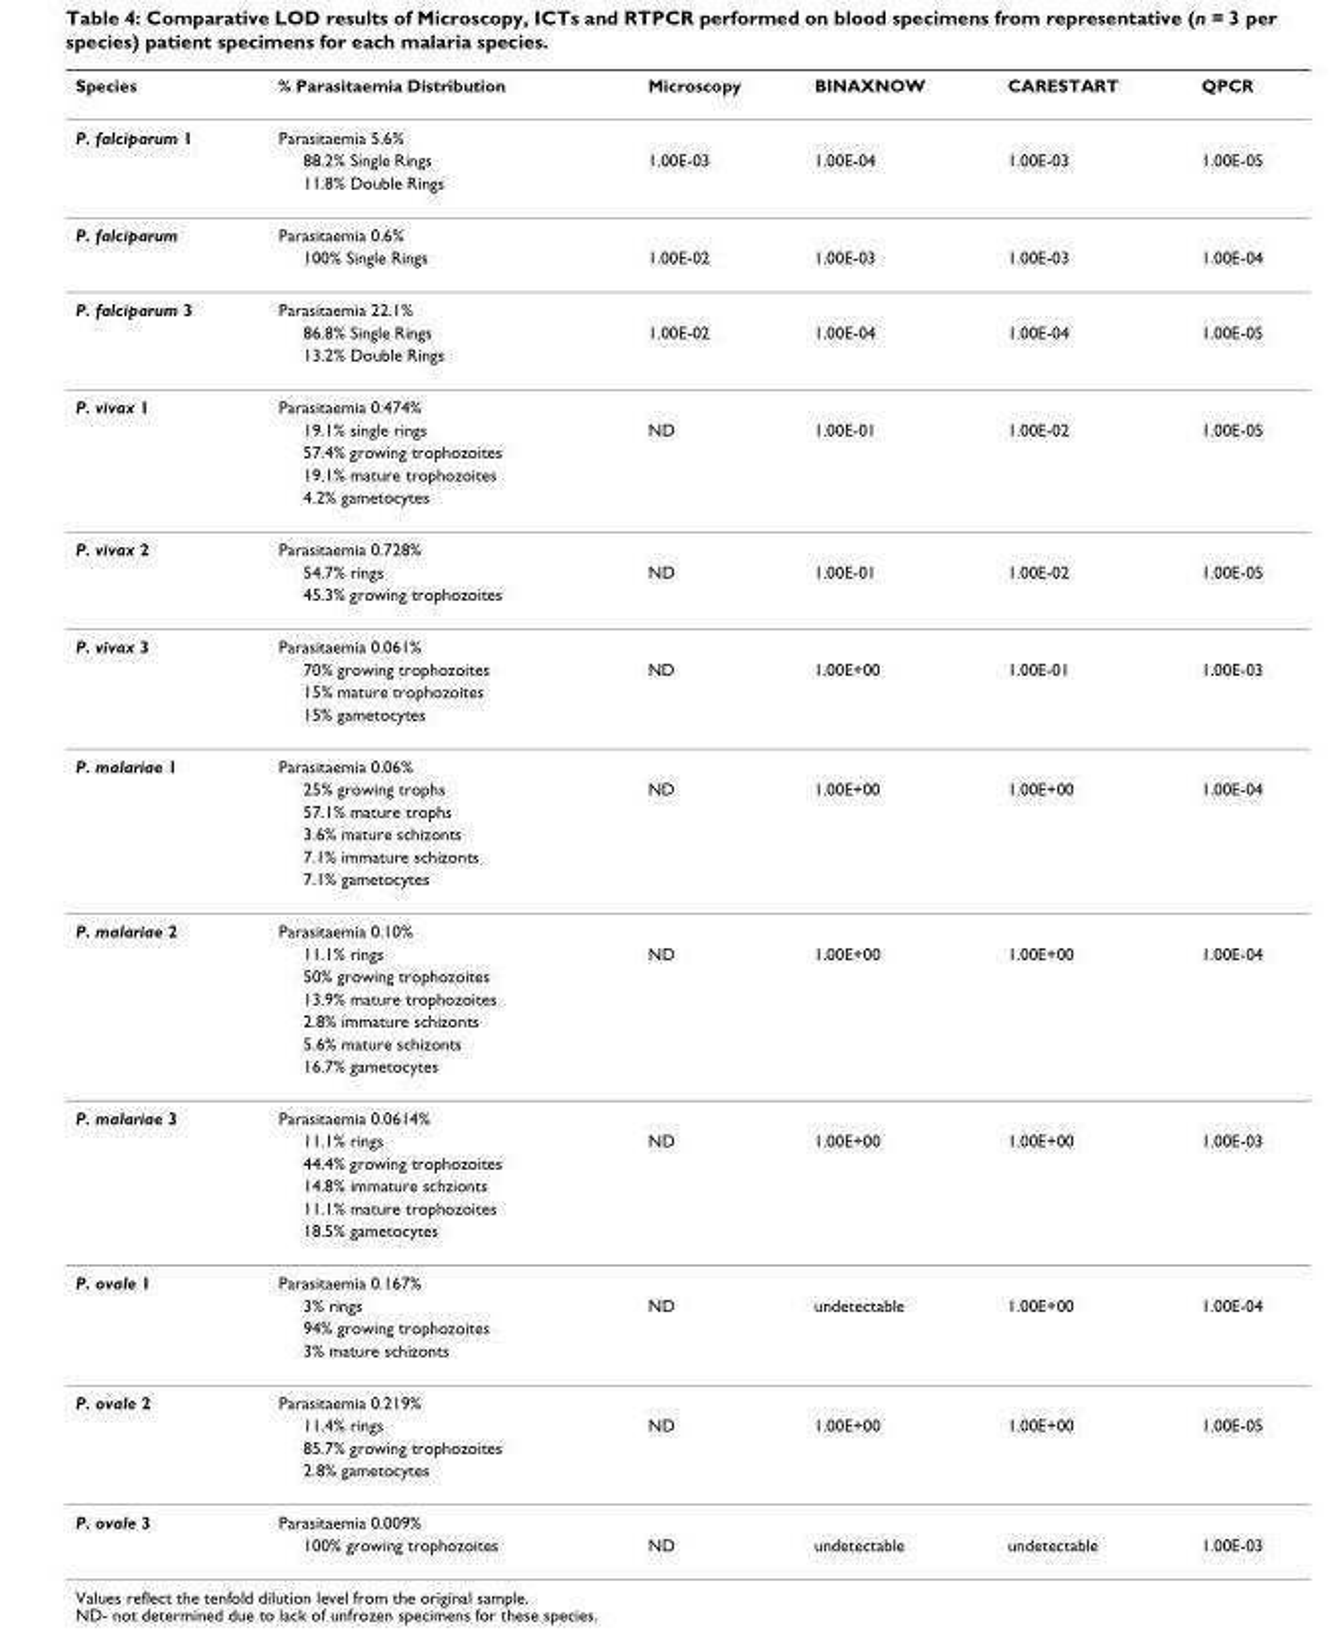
<table><thead><tr><td>Species</td><td>% Parasitaemia Distribution</td><td>Microscopy</td><td>BINAXNOW</td><td>CARESTART</td><td>QPCR</td></tr></thead><tbody><tr><td rowspan="3">P. falciparum 1</td><td>Parasitaemia 5.6%</td><td></td><td></td><td></td><td></td></tr><tr><td>88.2% Single Rings</td><td>1.00E-03</td><td>1.00E-04</td><td>1.00E-03</td><td>1.00E-05</td></tr><tr><td>11.8% Double Rings</td><td></td><td></td><td></td><td></td></tr><tr><td rowspan="2">P. falciparum</td><td>Parasitaemia 0.6%</td><td></td><td></td><td></td><td></td></tr><tr><td>100% Single Rings</td><td>1.00E-02</td><td>1.00E-03</td><td>1.00E-03</td><td>1.00E-04</td></tr><tr><td rowspan="3">P. falciparum 3</td><td>Parasitaemia 22.1%</td><td></td><td></td><td></td><td></td></tr><tr><td>86.8% Single Rings</td><td>1.00E-02</td><td>1.00E-04</td><td>1.00E-04</td><td>1.00E-05</td></tr><tr><td>13.2% Double Rings</td><td></td><td></td><td></td><td></td></tr><tr><td rowspan="5">P. vivax 1</td><td>Parasitaemia 0.474%</td><td></td><td></td><td></td><td></td></tr><tr><td>19.1% single rings</td><td>ND</td><td>1.00E-01</td><td>1.00E-02</td><td>1.00E-05</td></tr><tr><td>57.4% growing trophozoites</td><td></td><td></td><td></td><td></td></tr><tr><td>19.1% mature trophozoites</td><td></td><td></td><td></td><td></td></tr><tr><td>4.2% gametocytes</td><td></td><td></td><td></td><td></td></tr><tr><td rowspan="3">P. vivax 2</td><td>Parasitaemia 0.728%</td><td></td><td></td><td></td><td></td></tr><tr><td>54.7% rings</td><td>ND</td><td>1.00E-01</td><td>1.00E-02</td><td>1.00E-05</td></tr><tr><td>45.3% growing trophozoites</td><td></td><td></td><td></td><td></td></tr><tr><td rowspan="4">P. vivax 3</td><td>Parasitaemia 0.061%</td><td></td><td></td><td></td><td></td></tr><tr><td>70% growing trophozoites</td><td>ND</td><td>1.00E+00</td><td>1.00E-01</td><td>1.00E-03</td></tr><tr><td>15% mature trophozoites</td><td></td><td></td><td></td><td></td></tr><tr><td>15% gametocytes</td><td></td><td></td><td></td><td></td></tr><tr><td rowspan="6">P. malariae 1</td><td>Parasitaemia 0.06%</td><td></td><td></td><td></td><td></td></tr><tr><td>25% growing trophs</td><td>ND</td><td>1.00E+00</td><td>1.00E+00</td><td>1.00E-04</td></tr><tr><td>57.1% mature trophs</td><td></td><td></td><td></td><td></td></tr><tr><td>3.6% mature schizonts</td><td></td><td></td><td></td><td></td></tr><tr><td>7.1% immature schizonts</td><td></td><td></td><td></td><td></td></tr><tr><td>7.1% gametocytes</td><td></td><td></td><td></td><td></td></tr><tr><td rowspan="7">P. malariae 2</td><td>Parasitaemia 0.10%</td><td></td><td></td><td></td><td></td></tr><tr><td>11.1% rings</td><td>ND</td><td>1.00E+00</td><td>1.00E+00</td><td>1.00E-04</td></tr><tr><td>50% growing trophozoites</td><td></td><td></td><td></td><td></td></tr><tr><td>13.9% mature trophozoites</td><td></td><td></td><td></td><td></td></tr><tr><td>2.8% immature schizonts</td><td></td><td></td><td></td><td></td></tr><tr><td>5.6% mature schizonts</td><td></td><td></td><td></td><td></td></tr><tr><td>16.7% gametocytes</td><td></td><td></td><td></td><td></td></tr><tr><td rowspan="6">P. malariae 3</td><td>Parasitaemia 0.0614%</td><td></td><td></td><td></td><td></td></tr><tr><td>11.1% rings</td><td>ND</td><td>1.00E+00</td><td>1.00E+00</td><td>1.00E-03</td></tr><tr><td>44.4% growing trophozoites</td><td></td><td></td><td></td><td></td></tr><tr><td>14.8% immature schzionts</td><td></td><td></td><td></td><td></td></tr><tr><td>11.1% mature trophozoites</td><td></td><td></td><td></td><td></td></tr><tr><td>18.5% gametocytes</td><td></td><td></td><td></td><td></td></tr><tr><td rowspan="4">P. ovale 1</td><td>Parasitaemia 0.167%</td><td></td><td></td><td></td><td></td></tr><tr><td>3% rings</td><td>ND</td><td>undetectable</td><td>1.00E+00</td><td>1.00E-04</td></tr><tr><td>94% growing trophozoites</td><td></td><td></td><td></td><td></td></tr><tr><td>3% mature schizonts</td><td></td><td></td><td></td><td></td></tr><tr><td rowspan="4">P. ovale 2</td><td>Parasitaemia 0.219%</td><td></td><td></td><td></td><td></td></tr><tr><td>11.4% rings</td><td>ND</td><td>1.00E+00</td><td>1.00E+00</td><td>1.00E-05</td></tr><tr><td>85.7% growing trophozoites</td><td></td><td></td><td></td><td></td></tr><tr><td>2.8% gametocytes</td><td></td><td></td><td></td><td></td></tr><tr><td rowspan="2">P. ovale 3</td><td>Parasitaemia 0.009%</td><td></td><td></td><td></td><td></td></tr><tr><td>100% growing trophozoites</td><td>ND</td><td>undetectable</td><td>undetectable</td><td>1.00E-03</td></tr></tbody></table>